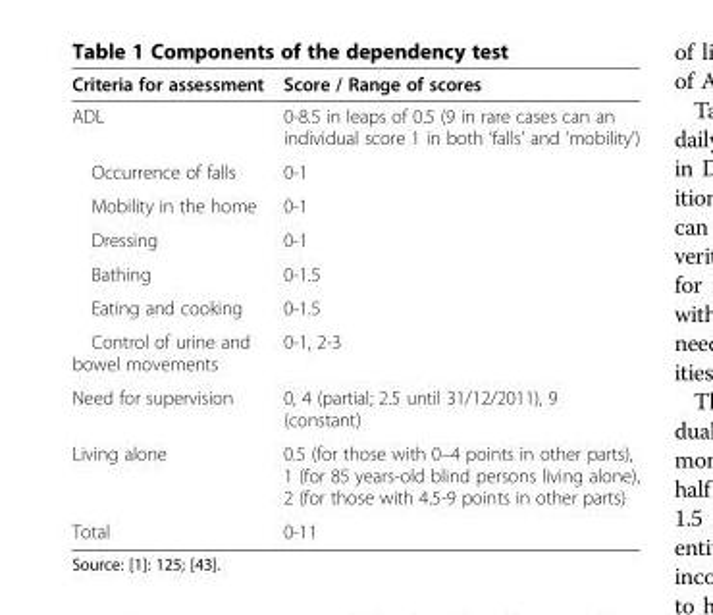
<table><thead><tr><td>Criteria for assessment</td><td>Score / Range of scores</td></tr></thead><tbody><tr><td>ADL</td><td>0-8.5 in leaps of 0.5 (9 in rare cases can an individual score 1 in both ‘falls’ and ‘mobility’)</td></tr><tr><td>Occurrence of falls</td><td>0-1</td></tr><tr><td>Mobility in the home</td><td>0-1</td></tr><tr><td>Dressing</td><td>0-1</td></tr><tr><td>Bathing</td><td>0-1.5</td></tr><tr><td>Eating and cooking</td><td>0-1.5</td></tr><tr><td>Control of urine and bowel movements</td><td>0-1, 2-3</td></tr><tr><td>Need for supervision</td><td>0, 4 (partial; 2.5 until 31/12/2011), 9 (constant)</td></tr><tr><td>Living alone</td><td>0.5 (for those with 0–4 points in other parts), 1 (for 85 years-old blind persons living alone), 2 (for those with 4.5-9 points in other parts)</td></tr><tr><td>Total</td><td>0-11</td></tr></tbody></table>